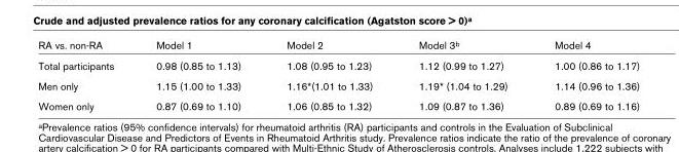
<table><thead><tr><td>RA vs. non-RA</td><td>Model 1</td><td>Model 2</td><td>Model 3<sup>b</sup></td><td>Model 4</td></tr></thead><tbody><tr><td>Total participants</td><td>0.98 (0.85 to 1.13)</td><td>1.08 (0.95 to 1.23)</td><td>1.12 (0.99 to 1.27)</td><td>1.00 (0.86 to 1.17)</td></tr><tr><td>Men only</td><td>1.15 (1.00 to 1.33)</td><td>1.16*(1.01 to 1.33)</td><td>1.19* (1.04 to 1.29)</td><td>1.14 (0.96 to 1.36)</td></tr><tr><td>Women only</td><td>0.87 (0.69 to 1.10)</td><td>1.06 (0.85 to 1.32)</td><td>1.09 (0.87 to 1.36)</td><td>0.89 (0.69 to 1.16)</td></tr></tbody></table>